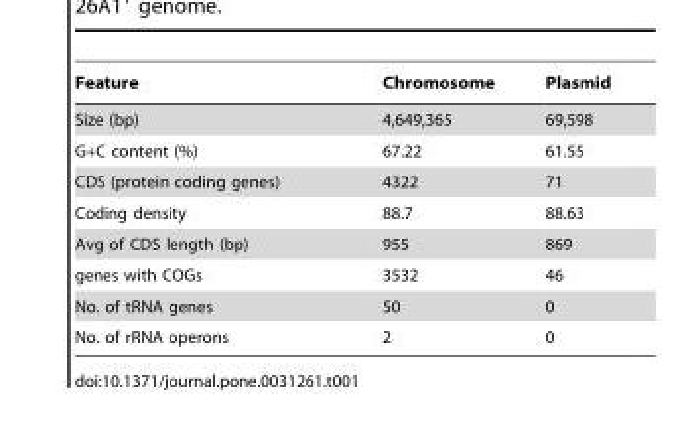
<table><thead><tr><td>Feature</td><td>Chromosome</td><td>Plasmid</td></tr></thead><tbody><tr><td>Size (bp)</td><td>4,649,365</td><td>69,598</td></tr><tr><td>G+C content (%)</td><td>67.22</td><td>61.55</td></tr><tr><td>CDS (protein coding genes)</td><td>4322</td><td>71</td></tr><tr><td>Coding density</td><td>88.7</td><td>88.63</td></tr><tr><td>Avg of CDS length (bp)</td><td>955</td><td>869</td></tr><tr><td>genes with COGs</td><td>3532</td><td>46</td></tr><tr><td>No. of tRNA genes</td><td>50</td><td>0</td></tr><tr><td>No. of rRNA operons</td><td>2</td><td>0</td></tr></tbody></table>